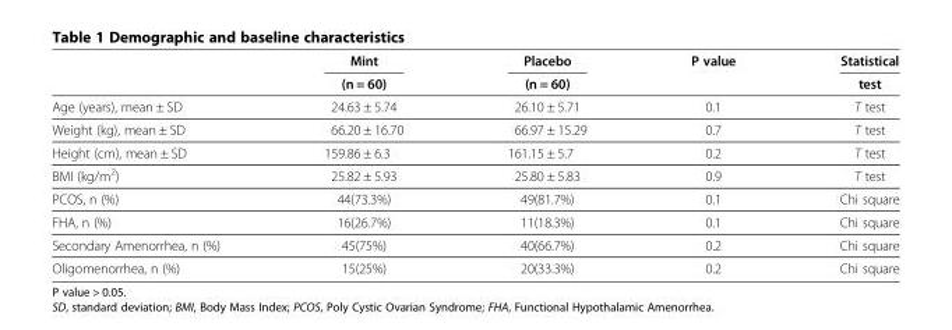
<table><thead><tr><td rowspan="2"></td><td rowspan="2">Mint (n = 60)</td><td rowspan="2">Placebo (n = 60)</td><td rowspan="2">P value</td><td rowspan="2">Statistical test</td></tr><tr></tr></thead><tbody><tr><td>Age (years), mean ± SD</td><td>24.63 ± 5.74</td><td>26.10 ± 5.71</td><td>0.1</td><td>T test</td></tr><tr><td>Weight (kg), mean ± SD</td><td>66.20 ± 16.70</td><td>66.97 ± 15.29</td><td>0.7</td><td>T test</td></tr><tr><td>Height (cm), mean ± SD</td><td>159.86 ± 6.3</td><td>161.15 ± 5.7</td><td>0.2</td><td>T test</td></tr><tr><td>BMI (kg/m<sup>2</sup>)</td><td>25.82 ± 5.93</td><td>25.80 ± 5.83</td><td>0.9</td><td>T test</td></tr><tr><td>PCOS, n (%)</td><td>44(73.3%)</td><td>49(81.7%)</td><td>0.1</td><td>Chi square</td></tr><tr><td>FHA, n (%)</td><td>16(26.7%)</td><td>11(18.3%)</td><td>0.1</td><td>Chi square</td></tr><tr><td>Secondary Amenorrhea, n (%)</td><td>45(75%)</td><td>40(66.7%)</td><td>0.2</td><td>Chi square</td></tr><tr><td>Oligomenorrhea, n (%)</td><td>15(25%)</td><td>20(33.3%)</td><td>0.2</td><td>Chi square</td></tr></tbody></table>